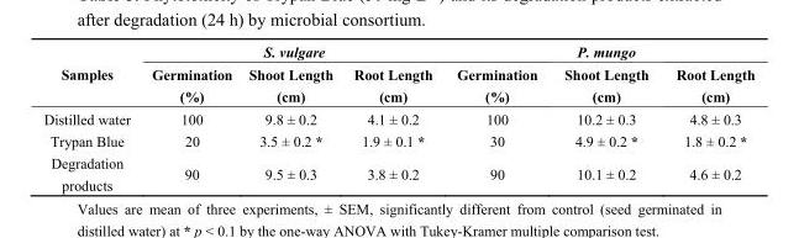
<table><thead><tr><td rowspan="2">Samples</td><td colspan="3">S. vulgare</td><td colspan="3">P. mungo</td></tr><tr><td>Germination (%)</td><td>Shoot Length (cm)</td><td>Root Length (cm)</td><td>Germination (%)</td><td>Shoot Length (cm)</td><td>Root Length (cm)</td></tr></thead><tbody><tr><td>Distilled water</td><td>100</td><td>9.8 ± 0.2</td><td>4.1 ± 0.2</td><td>100</td><td>10.2 ± 0.3</td><td>4.8 ± 0.3</td></tr><tr><td>Trypan Blue</td><td>20</td><td>3.5 ± 0.2 *</td><td>1.9 ± 0.1 *</td><td>30</td><td>4.9 ± 0.2 *</td><td>1.8 ± 0.2 *</td></tr><tr><td>Degradation products</td><td>90</td><td>9.5 ± 0.3</td><td>3.8 ± 0.2</td><td>90</td><td>10.1 ± 0.2</td><td>4.6 ± 0.2</td></tr></tbody></table>